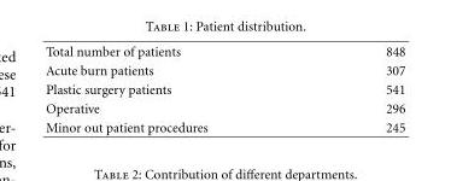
<table><tbody><tr><td>Total number of patients</td><td>848</td></tr><tr><td>Acute burn patients</td><td>307</td></tr><tr><td>Plastic surgery patients</td><td>541</td></tr><tr><td>Operative</td><td>296</td></tr><tr><td>Minor out patient procedures</td><td>245</td></tr></tbody></table>